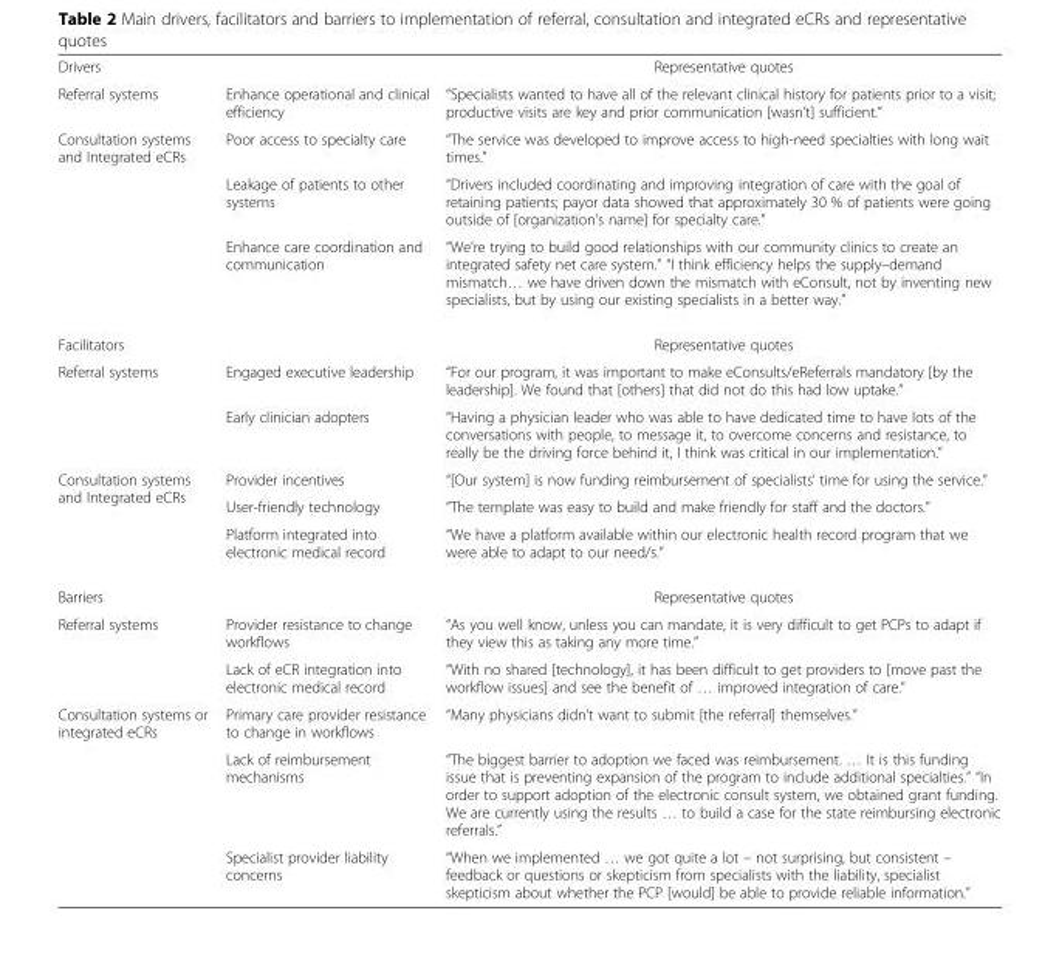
<table><tbody><tr><td colspan="2">Drivers</td><td>Representative quotes</td></tr><tr><td>Referral systems</td><td>Enhance operational and clinical efficiency</td><td>“Specialists wanted to have all of the relevant clinical history for patients prior to a visit; productive visits are key and prior communication [wasn’t] sufficient.”</td></tr><tr><td rowspan="3">Consultation systems and Integrated eCRs</td><td>Poor access to specialty care</td><td>“The service was developed to improve access to high-need specialties with long wait times.”</td></tr><tr><td>Leakage of patients to other systems</td><td>“Drivers included coordinating and improving integration of care with the goal of retaining patients; payor data showed that approximately 30 % of patients were going outside of [organization’s name] for specialty care.”</td></tr><tr><td>Enhance care coordination and communication</td><td>“We’re trying to build good relationships with our community clinics to create an integrated safety net care system.” “I think efficiency helps the supply–demand mismatch… we have driven down the mismatch with eConsult, not by inventing new specialists, but by using our existing specialists in a better way.”</td></tr><tr><td colspan="2">Facilitators</td><td>Representative quotes</td></tr><tr><td rowspan="2">Referral systems</td><td>Engaged executive leadership</td><td>“For our program, it was important to make eConsults/eReferrals mandatory [by the leadership]. We found that [others] that did not do this had low uptake.”</td></tr><tr><td>Early clinician adopters</td><td>“Having a physician leader who was able to have dedicated time to have lots of the conversations with people, to message it, to overcome concerns and resistance, to really be the driving force behind it, I think was critical in our implementation.”</td></tr><tr><td rowspan="3">Consultation systems and Integrated eCRs</td><td>Provider incentives</td><td>“[Our system] is now funding reimbursement of specialists’ time for using the service.”</td></tr><tr><td>User-friendly technology</td><td>“The template was easy to build and make friendly for staff and the doctors.”</td></tr><tr><td>Platform integrated into electronic medical record</td><td>“We have a platform available within our electronic health record program that we were able to adapt to our need/s.”</td></tr><tr><td colspan="2">Barriers</td><td>Representative quotes</td></tr><tr><td rowspan="2">Referral systems</td><td>Provider resistance to change workflows</td><td>“As you well know, unless you can mandate, it is very difficult to get PCPs to adapt if they view this as taking any more time.”</td></tr><tr><td>Lack of eCR integration into electronic medical record</td><td>“With no shared [technology], it has been difficult to get providers to [move past the workflow issues] and see the benefit of … improved integration of care.”</td></tr><tr><td rowspan="3">Consultation systems or integrated eCRs</td><td>Primary care provider resistance to change in workflows</td><td>“Many physicians didn’t want to submit [the referral] themselves.”</td></tr><tr><td>Lack of reimbursement mechanisms</td><td>“The biggest barrier to adoption we faced was reimbursement. … It is this funding issue that is preventing expansion of the program to include additional specialties.” “In order to support adoption of the electronic consult system, we obtained grant funding. We are currently using the results … to build a case for the state reimbursing electronic referrals.”</td></tr><tr><td>Specialist provider liability concerns</td><td>“When we implemented … we got quite a lot – not surprising, but consistent – feedback or questions or skepticism from specialists with the liability, specialist skepticism about whether the PCP [would] be able to provide reliable information.”</td></tr></tbody></table>